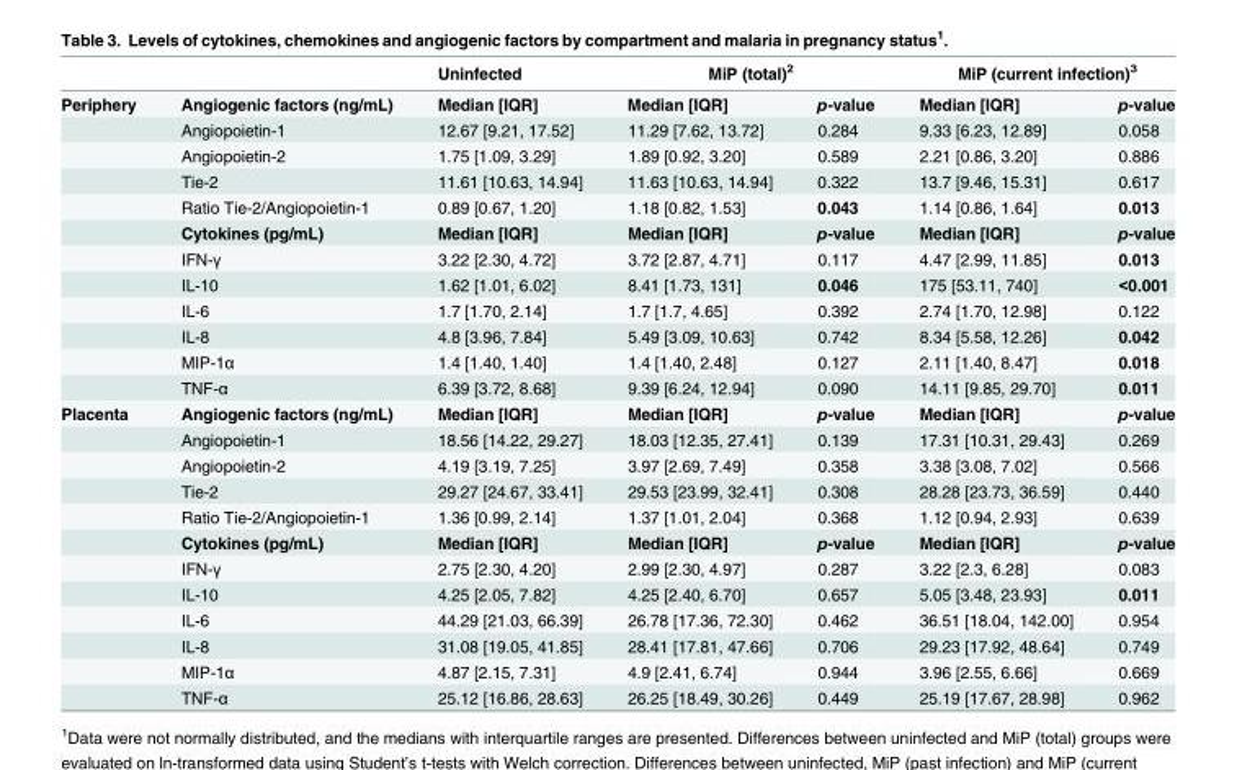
<table><thead><tr><td rowspan="2">Periphery</td><td rowspan="2">Angiogenic factors (ng/mL)</td><td rowspan="2">Uninfected Median [IQR]</td><td colspan="2">MiP (total)<sup>2</sup></td><td colspan="2">MiP (current infection)<sup>3</sup></td></tr><tr><td>Median [IQR]</td><td>p-value</td><td>Median [IQR]</td><td>p-value</td></tr></thead><tbody><tr><td></td><td>Angiopoietin-1</td><td>12.67 [9.21, 17.52]</td><td>11.29 [7.62, 13.72]</td><td>0.284</td><td>9.33 [6.23, 12.89]</td><td>0.058</td></tr><tr><td></td><td>Angiopoietin-2</td><td>1.75 [1.09, 3.29]</td><td>1.89 [0.92, 3.20]</td><td>0.589</td><td>2.21 [0.86, 3.20]</td><td>0.886</td></tr><tr><td></td><td>Tie-2</td><td>11.61 [10.63, 14.94]</td><td>11.63 [10.63, 14.94]</td><td>0.322</td><td>13.7 [9.46, 15.31]</td><td>0.617</td></tr><tr><td></td><td>Ratio Tie-2/Angiopoietin-1</td><td>0.89 [0.67, 1.20]</td><td>1.18 [0.82, 1.53]</td><td>0.043</td><td>1.14 [0.86, 1.64]</td><td>0.013</td></tr><tr><td></td><td>Cytokines (pg/mL)</td><td>Median [IQR]</td><td>Median [IQR]</td><td>p-value</td><td>Median [IQR]</td><td>p-value</td></tr><tr><td></td><td>IFN-γ</td><td>3.22 [2.30, 4.72]</td><td>3.72 [2.87, 4.71]</td><td>0.117</td><td>4.47 [2.99, 11.85]</td><td>0.013</td></tr><tr><td></td><td>IL-10</td><td>1.62 [1.01, 6.02]</td><td>8.41 [1.73, 131]</td><td>0.046</td><td>175 [53.11, 740]</td><td>&lt;0.001</td></tr><tr><td></td><td>IL-6</td><td>1.7 [1.70, 2.14]</td><td>1.7 [1.7, 4.65]</td><td>0.392</td><td>2.74 [1.70, 12.98]</td><td>0.122</td></tr><tr><td></td><td>IL-8</td><td>4.8 [3.96, 7.84]</td><td>5.49 [3.09, 10.63]</td><td>0.742</td><td>8.34 [5.58, 12.26]</td><td>0.042</td></tr><tr><td></td><td>MIP-1α</td><td>1.4 [1.40, 1.40]</td><td>1.4 [1.40, 2.48]</td><td>0.127</td><td>2.11 [1.40, 8.47]</td><td>0.018</td></tr><tr><td></td><td>TNF-α</td><td>6.39 [3.72, 8.68]</td><td>9.39 [6.24, 12.94]</td><td>0.090</td><td>14.11 [9.85, 29.70]</td><td>0.011</td></tr><tr><td rowspan="12">Placenta</td><td>Angiogenic factors (ng/mL)</td><td>Median [IQR]</td><td>Median [IQR]</td><td>p-value</td><td>Median [IQR]</td><td>p-value</td></tr><tr><td>Angiopoietin-1</td><td>18.56 [14.22, 29.27]</td><td>18.03 [12.35, 27.41]</td><td>0.139</td><td>17.31 [10.31, 29.43]</td><td>0.269</td></tr><tr><td>Angiopoietin-2</td><td>4.19 [3.19, 7.25]</td><td>3.97 [2.69, 7.49]</td><td>0.358</td><td>3.38 [3.08, 7.02]</td><td>0.566</td></tr><tr><td>Tie-2</td><td>29.27 [24.67, 33.41]</td><td>29.53 [23.99, 32.41]</td><td>0.308</td><td>28.28 [23.73, 36.59]</td><td>0.440</td></tr><tr><td>Ratio Tie-2/Angiopoietin-1</td><td>1.36 [0.99, 2.14]</td><td>1.37 [1.01, 2.04]</td><td>0.368</td><td>1.12 [0.94, 2.93]</td><td>0.639</td></tr><tr><td>Cytokines (pg/mL)</td><td>Median [IQR]</td><td>Median [IQR]</td><td>p-value</td><td>Median [IQR]</td><td>p-value</td></tr><tr><td>IFN-γ</td><td>2.75 [2.30, 4.20]</td><td>2.99 [2.30, 4.97]</td><td>0.287</td><td>3.22 [2.3, 6.28]</td><td>0.083</td></tr><tr><td>IL-10</td><td>4.25 [2.05, 7.82]</td><td>4.25 [2.40, 6.70]</td><td>0.657</td><td>5.05 [3.48, 23.93]</td><td>0.011</td></tr><tr><td>IL-6</td><td>44.29 [21.03, 66.39]</td><td>26.78 [17.36, 72.30]</td><td>0.462</td><td>36.51 [18.04, 142.00]</td><td>0.954</td></tr><tr><td>IL-8</td><td>31.08 [19.05, 41.85]</td><td>28.41 [17.81, 47.66]</td><td>0.706</td><td>29.23 [17.92, 48.64]</td><td>0.749</td></tr><tr><td>MIP-1α</td><td>4.87 [2.15, 7.31]</td><td>4.9 [2.41, 6.74]</td><td>0.944</td><td>3.96 [2.55, 6.66]</td><td>0.669</td></tr><tr><td>TNF-α</td><td>25.12 [16.86, 28.63]</td><td>26.25 [18.49, 30.26]</td><td>0.449</td><td>25.19 [17.67, 28.98]</td><td>0.962</td></tr></tbody></table>